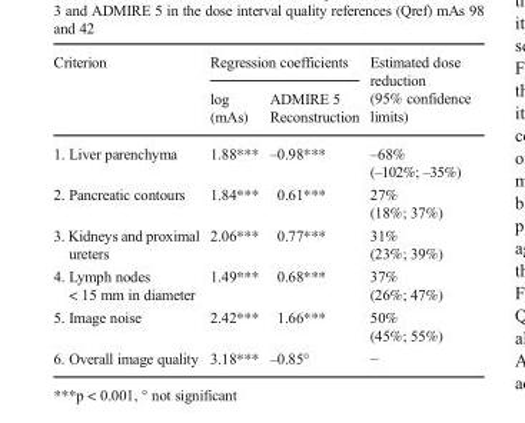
<table><thead><tr><td rowspan="2">Criterion</td><td colspan="2">Regression coefficients</td><td rowspan="2">Estimated dose reduction (95% confidence limits)</td></tr><tr><td>log (mAs)</td><td>ADMIRE 5 Reconstruction</td></tr></thead><tbody><tr><td>1. Liver parenchyma</td><td>1.88***</td><td>–0.98***</td><td>–68% (–102%; –35%)</td></tr><tr><td>2. Pancreatic contours</td><td>1.84***</td><td>0.61***</td><td>27% (18%; 37%)</td></tr><tr><td>3. Kidneys and proximal ureters</td><td>2.06***</td><td>0.77***</td><td>31% (23%; 39%)</td></tr><tr><td>4. Lymph nodes &lt; 15 mm in diameter</td><td>1.49***</td><td>0.68***</td><td>37% (26%; 47%)</td></tr><tr><td>5. Image noise</td><td>2.42***</td><td>1.66***</td><td>50% (45%; 55%)</td></tr><tr><td>6. Overall image quality</td><td>3.18***</td><td>–0.85°</td><td>−</td></tr></tbody></table>